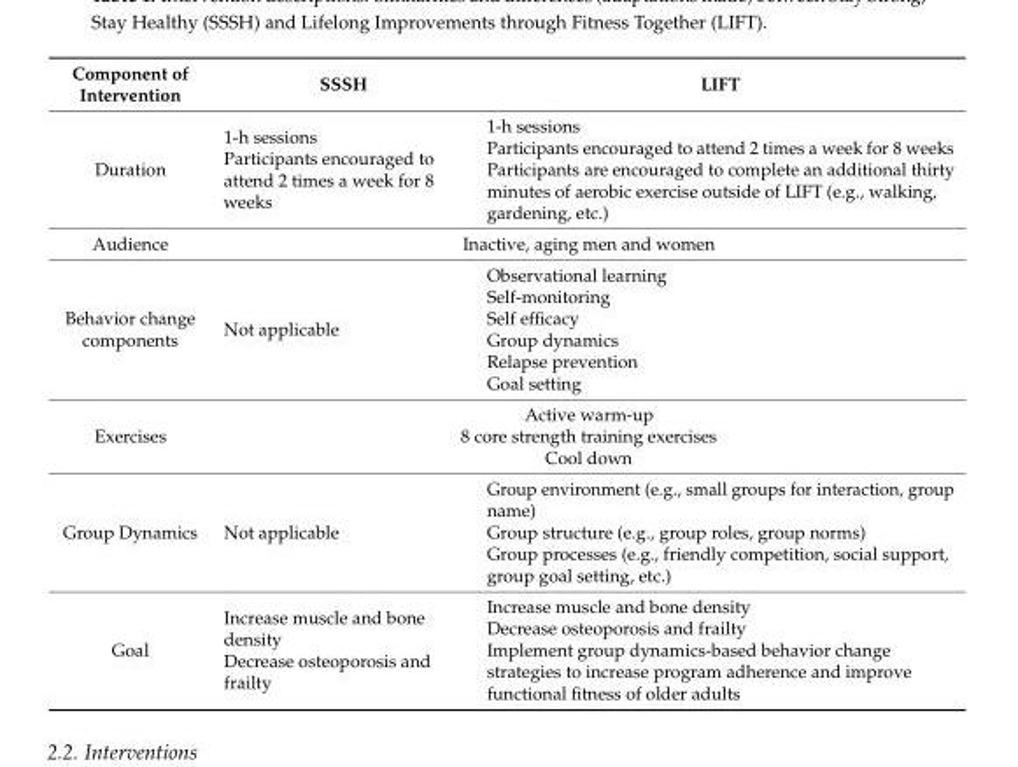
<table><thead><tr><td>Component of Intervention</td><td>SSSH</td><td>LIFT</td></tr></thead><tbody><tr><td>Duration</td><td>1-h sessions Participants encouraged to attend 2 times a week for 8 weeks</td><td>1-h sessions Participants encouraged to attend 2 times a week for 8 weeks Participants are encouraged to complete an additional thirty minutes of aerobic exercise outside of LIFT (e.g., walking, gardening, etc.)</td></tr><tr><td>Audience</td><td colspan="2">Inactive, aging men and women</td></tr><tr><td>Behavior change components</td><td>Not applicable</td><td>Observational learning Self-monitoring Self efficacy Group dynamics Relapse prevention Goal setting</td></tr><tr><td>Exercises</td><td colspan="2">Active warm-up 8 core strength training exercises Cool down</td></tr><tr><td>Group Dynamics</td><td>Not applicable</td><td>Group environment (e.g., small groups for interaction, group name) Group structure (e.g., group roles, group norms) Group processes (e.g., friendly competition, social support, group goal setting, etc.)</td></tr><tr><td>Goal</td><td>Increase muscle and bone density Decrease osteoporosis and frailty</td><td>Increase muscle and bone density Decrease osteoporosis and frailty Implement group dynamics-based behavior change strategies to increase program adherence and improve functional fitness of older adults</td></tr></tbody></table>